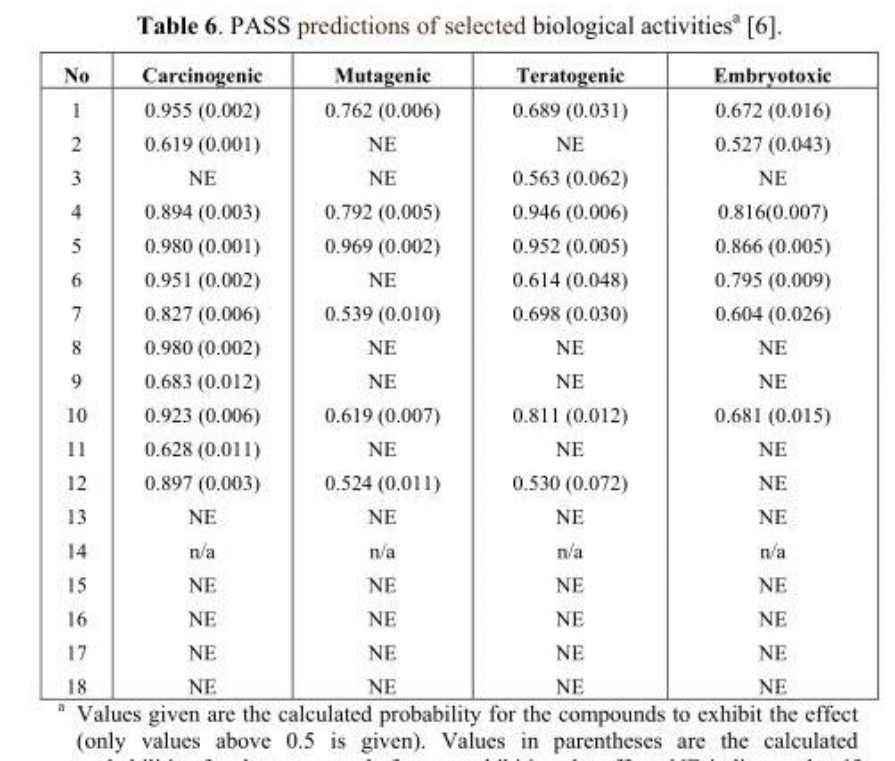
<table><thead><tr><td>No</td><td>Carcinogenic</td><td>Mutagenic</td><td>Teratogenic</td><td>Embryotoxic</td></tr></thead><tbody><tr><td>1</td><td>0.955 (0.002)</td><td>0.762 (0.006)</td><td>0.689 (0.031)</td><td>0.672 (0.016)</td></tr><tr><td>2</td><td>0.619 (0.001)</td><td>NE</td><td>NE</td><td>0.527 (0.043)</td></tr><tr><td>3</td><td>NE</td><td>NE</td><td>0.563 (0.062)</td><td>NE</td></tr><tr><td>4</td><td>0.894 (0.003)</td><td>0.792 (0.005)</td><td>0.946 (0.006)</td><td>0.816(0.007)</td></tr><tr><td>5</td><td>0.980 (0.001)</td><td>0.969 (0.002)</td><td>0.952 (0.005)</td><td>0.866 (0.005)</td></tr><tr><td>6</td><td>0.951 (0.002)</td><td>NE</td><td>0.614 (0.048)</td><td>0.795 (0.009)</td></tr><tr><td>7</td><td>0.827 (0.006)</td><td>0.539 (0.010)</td><td>0.698 (0.030)</td><td>0.604 (0.026)</td></tr><tr><td>8</td><td>0.980 (0.002)</td><td>NE</td><td>NE</td><td>NE</td></tr><tr><td>9</td><td>0.683 (0.012)</td><td>NE</td><td>NE</td><td>NE</td></tr><tr><td>10</td><td>0.923 (0.006)</td><td>0.619 (0.007)</td><td>0.811 (0.012)</td><td>0.681 (0.015)</td></tr><tr><td>11</td><td>0.628 (0.011)</td><td>NE</td><td>NE</td><td>NE</td></tr><tr><td>12</td><td>0.897 (0.003)</td><td>0.524 (0.011)</td><td>0.530 (0.072)</td><td>NE</td></tr><tr><td>13</td><td>NE</td><td>NE</td><td>NE</td><td>NE</td></tr><tr><td>14</td><td>n/a</td><td>n/a</td><td>n/a</td><td>n/a</td></tr><tr><td>15</td><td>NE</td><td>NE</td><td>NE</td><td>NE</td></tr><tr><td>16</td><td>NE</td><td>NE</td><td>NE</td><td>NE</td></tr><tr><td>17</td><td>NE</td><td>NE</td><td>NE</td><td>NE</td></tr><tr><td>18</td><td>NE</td><td>NE</td><td>NE</td><td>NE</td></tr></tbody></table>